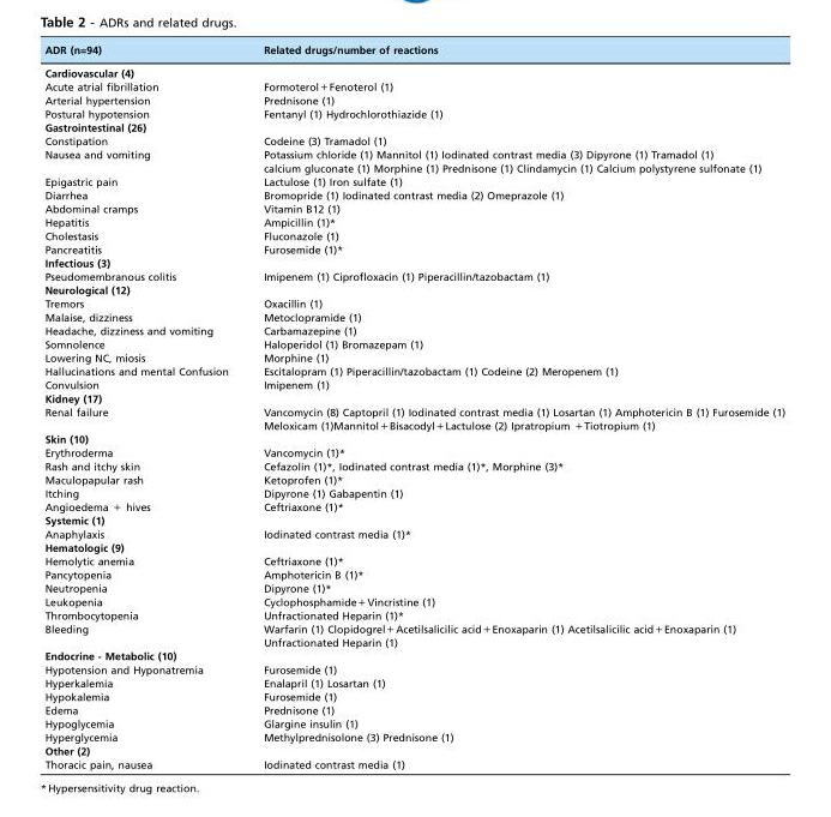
<table><thead><tr><td>ADR (n=94)</td><td>Related drugs/number of reactions</td></tr></thead><tbody><tr><td colspan="2">Cardiovascular (4)</td></tr><tr><td>Acute atrial fibrillation</td><td>Formoterol+Fenoterol (1)</td></tr><tr><td>Arterial hypertension</td><td>Prednisone (1)</td></tr><tr><td>Postural hypotension</td><td>Fentanyl (1) Hydrochlorothiazide (1)</td></tr><tr><td colspan="2">Gastrointestinal (26)</td></tr><tr><td>Constipation</td><td>Codeine (3) Tramadol (1)</td></tr><tr><td>Nausea and vomiting</td><td>Potassium chloride (1) Mannitol (1) Iodinated contrast media (3) Dipyrone (1) Tramadol (1) calcium gluconate (1) Morphine (1) Prednisone (1) Clindamycin (1) Calcium polystyrene sulfonate (1)</td></tr><tr><td>Epigastric pain</td><td>Lactulose (1) Iron sulfate (1)</td></tr><tr><td>Diarrhea</td><td>Bromopride (1) Iodinated contrast media (2) Omeprazole (1)</td></tr><tr><td>Abdominal cramps</td><td>Vitamin B12 (1)</td></tr><tr><td>Hepatitis</td><td>Ampicillin (1)*</td></tr><tr><td>Cholestasis</td><td>Fluconazole (1)</td></tr><tr><td>Pancreatitis</td><td>Furosemide (1)*</td></tr><tr><td colspan="2">Infectious (3)</td></tr><tr><td>Pseudomembranous colitis</td><td>Imipenem (1) Ciprofloxacin (1) Piperacillin/tazobactam (1)</td></tr><tr><td colspan="2">Neurological (12)</td></tr><tr><td>Tremors</td><td>Oxacillin (1)</td></tr><tr><td>Malaise, dizziness</td><td>Metoclopramide (1)</td></tr><tr><td>Headache, dizziness and vomiting</td><td>Carbamazepine (1)</td></tr><tr><td>Somnolence</td><td>Haloperidol (1) Bromazepam (1)</td></tr><tr><td>Lowering NC, miosis</td><td>Morphine (1)</td></tr><tr><td>Hallucinations and mental Confusion</td><td>Escitalopram (1) Piperacillin/tazobactam (1) Codeine (2) Meropenem (1)</td></tr><tr><td>Convulsion</td><td>Imipenem (1)</td></tr><tr><td colspan="2">Kidney (17)</td></tr><tr><td>Renal failure</td><td>Vancomycin (8) Captopril (1) Iodinated contrast media (1) Losartan (1) Amphotericin B (1) Furosemide (1) Meloxicam (1)Mannitol+Bisacodyl+Lactulose (2) Ipratropium +Tiotropium (1)</td></tr><tr><td colspan="2">Skin (10)</td></tr><tr><td>Erythroderma</td><td>Vancomycin (1)*</td></tr><tr><td>Rash and itchy skin</td><td>Cefazolin (1)*, Iodinated contrast media (1)*, Morphine (3)*</td></tr><tr><td>Maculopapular rash</td><td>Ketoprofen (1)*</td></tr><tr><td>Itching</td><td>Dipyrone (1) Gabapentin (1)</td></tr><tr><td>Angioedema + hives</td><td>Ceftriaxone (1)*</td></tr><tr><td colspan="2">Systemic (1)</td></tr><tr><td>Anaphylaxis</td><td>Iodinated contrast media (1)*</td></tr><tr><td colspan="2">Hematologic (9)</td></tr><tr><td>Hemolytic anemia</td><td>Ceftriaxone (1)*</td></tr><tr><td>Pancytopenia</td><td>Amphotericin B (1)*</td></tr><tr><td>Neutropenia</td><td>Dipyrone (1)*</td></tr><tr><td>Leukopenia</td><td>Cyclophosphamide+Vincristine (1)</td></tr><tr><td>Thrombocytopenia</td><td>Unfractionated Heparin (1)*</td></tr><tr><td>Bleeding</td><td>Warfarin (1) Clopidogrel+Acetilsalicilic acid+Enoxaparin (1) Acetilsalicilic acid+Enoxaparin (1) Unfractionated Heparin (1)</td></tr><tr><td colspan="2">Endocrine - Metabolic (10)</td></tr><tr><td>Hypotension and Hyponatremia</td><td>Furosemide (1)</td></tr><tr><td>Hyperkalemia</td><td>Enalapril (1) Losartan (1)</td></tr><tr><td>Hypokalemia</td><td>Furosemide (1)</td></tr><tr><td>Edema</td><td>Prednisone (1)</td></tr><tr><td>Hypoglycemia</td><td>Glargine insulin (1)</td></tr><tr><td>Hyperglycemia</td><td>Methylprednisolone (3) Prednisone (1)</td></tr><tr><td colspan="2">Other (2)</td></tr><tr><td>Thoracic pain, nausea</td><td>Iodinated contrast media (1)</td></tr></tbody></table>